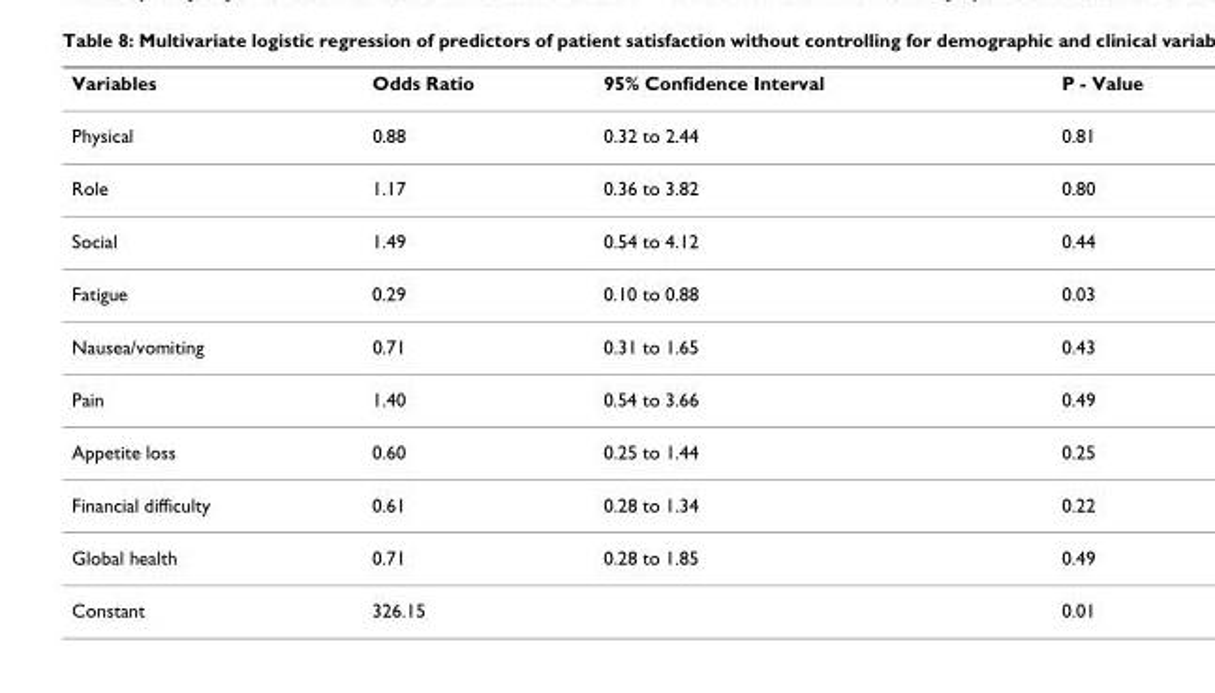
<table><thead><tr><td>Variables</td><td>Odds Ratio</td><td>95% Confidence Interval</td><td>P - Value</td></tr></thead><tbody><tr><td>Physical</td><td>0.88</td><td>0.32 to 2.44</td><td>0.81</td></tr><tr><td>Role</td><td>1.17</td><td>0.36 to 3.82</td><td>0.80</td></tr><tr><td>Social</td><td>1.49</td><td>0.54 to 4.12</td><td>0.44</td></tr><tr><td>Fatigue</td><td>0.29</td><td>0.10 to 0.88</td><td>0.03</td></tr><tr><td>Nausea/vomiting</td><td>0.71</td><td>0.31 to 1.65</td><td>0.43</td></tr><tr><td>Pain</td><td>1.40</td><td>0.54 to 3.66</td><td>0.49</td></tr><tr><td>Appetite loss</td><td>0.60</td><td>0.25 to 1.44</td><td>0.25</td></tr><tr><td>Financial difficulty</td><td>0.61</td><td>0.28 to 1.34</td><td>0.22</td></tr><tr><td>Global health</td><td>0.71</td><td>0.28 to 1.85</td><td>0.49</td></tr><tr><td>Constant</td><td>326.15</td><td></td><td>0.01</td></tr></tbody></table>